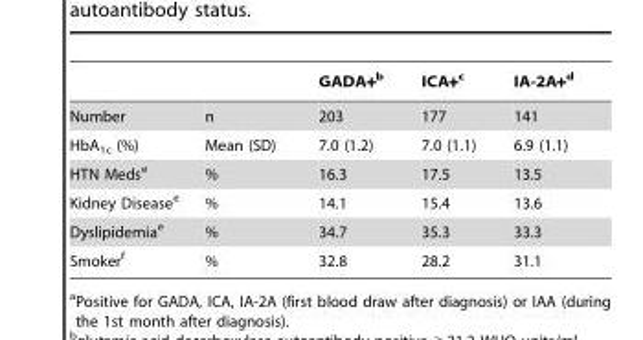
<table><thead><tr><td></td><td></td><td>GADA+<sup>b</sup></td><td>ICA+<sup>c</sup></td><td>IA-2A+<sup>d</sup></td></tr></thead><tbody><tr><td>Number</td><td>n</td><td>203</td><td>177</td><td>141</td></tr><tr><td>HbA<sub>1c</sub> (%)</td><td>Mean (SD)</td><td>7.0 (1.2)</td><td>7.0 (1.1)</td><td>6.9 (1.1)</td></tr><tr><td>HTN Meds<sup>e</sup></td><td>%</td><td>16.3</td><td>17.5</td><td>13.5</td></tr><tr><td>Kidney Disease<sup>e</sup></td><td>%</td><td>14.1</td><td>15.4</td><td>13.6</td></tr><tr><td>Dyslipidemia<sup>e</sup></td><td>%</td><td>34.7</td><td>35.3</td><td>33.3</td></tr><tr><td>Smoker<sup>f</sup></td><td>%</td><td>32.8</td><td>28.2</td><td>31.1</td></tr></tbody></table>